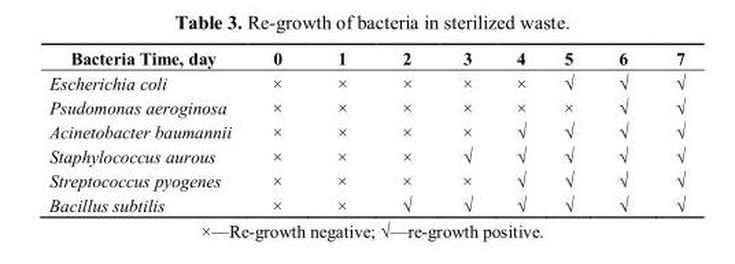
<table><thead><tr><td>Bacteria Time, day</td><td>0</td><td>1</td><td>2</td><td>3</td><td>4</td><td>5</td><td>6</td><td>7</td></tr></thead><tbody><tr><td>Escherichia coli</td><td>×</td><td>×</td><td>×</td><td>×</td><td>×</td><td>√</td><td>√</td><td>√</td></tr><tr><td>Psudomonas aeroginosa</td><td>×</td><td>×</td><td>×</td><td>×</td><td>×</td><td>×</td><td>√</td><td>√</td></tr><tr><td>Acinetobacter baumannii</td><td>×</td><td>×</td><td>×</td><td>×</td><td>√</td><td>√</td><td>√</td><td>√</td></tr><tr><td>Staphylococcus aurous</td><td>×</td><td>×</td><td>×</td><td>√</td><td>√</td><td>√</td><td>√</td><td>√</td></tr><tr><td>Streptococcus pyogenes</td><td>×</td><td>×</td><td>×</td><td>×</td><td>√</td><td>√</td><td>√</td><td>√</td></tr><tr><td>Bacillus subtilis</td><td>×</td><td>×</td><td>√</td><td>√</td><td>√</td><td>√</td><td>√</td><td>√</td></tr></tbody></table>